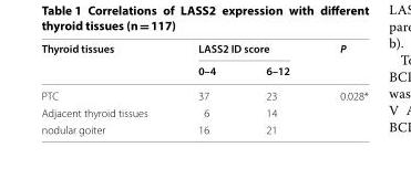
<table><thead><tr><td rowspan="2">Thyroid tissues</td><td colspan="2">LASS2 ID score</td><td rowspan="2">P</td></tr><tr><td>0–4</td><td>6–12</td></tr></thead><tbody><tr><td>PTC</td><td>37</td><td>23</td><td rowspan="3">0.028*</td></tr><tr><td>Adjacent thyroid tissues</td><td>6</td><td>14</td></tr><tr><td>nodular goiter</td><td>16</td><td>21</td></tr></tbody></table>